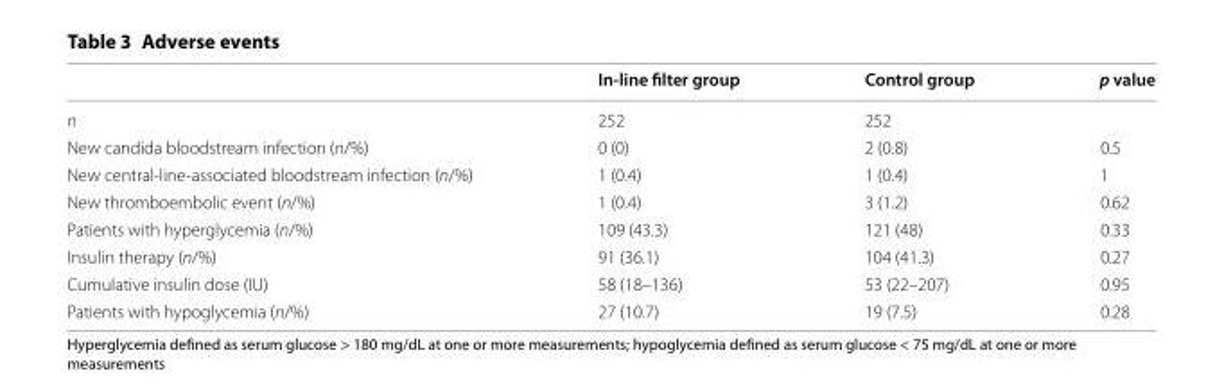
<table><thead><tr><td></td><td>In-line filter group</td><td>Control group</td><td>p value</td></tr></thead><tbody><tr><td>n</td><td>252</td><td>252</td><td></td></tr><tr><td>New candida bloodstream infection (n/%)</td><td>0 (0)</td><td>2 (0.8)</td><td>0.5</td></tr><tr><td>New central‑line‑associated bloodstream infection (n/%)</td><td>1 (0.4)</td><td>1 (0.4)</td><td>1</td></tr><tr><td>New thromboembolic event (n/%)</td><td>1 (0.4)</td><td>3 (1.2)</td><td>0.62</td></tr><tr><td>Patients with hyperglycemia (n/%)</td><td>109 (43.3)</td><td>121 (48)</td><td>0.33</td></tr><tr><td>Insulin therapy (n/%)</td><td>91 (36.1)</td><td>104 (41.3)</td><td>0.27</td></tr><tr><td>Cumulative insulin dose (IU)</td><td>58 (18–136)</td><td>53 (22–207)</td><td>0.95</td></tr><tr><td>Patients with hypoglycemia (n/%)</td><td>27 (10.7)</td><td>19 (7.5)</td><td>0.28</td></tr></tbody></table>